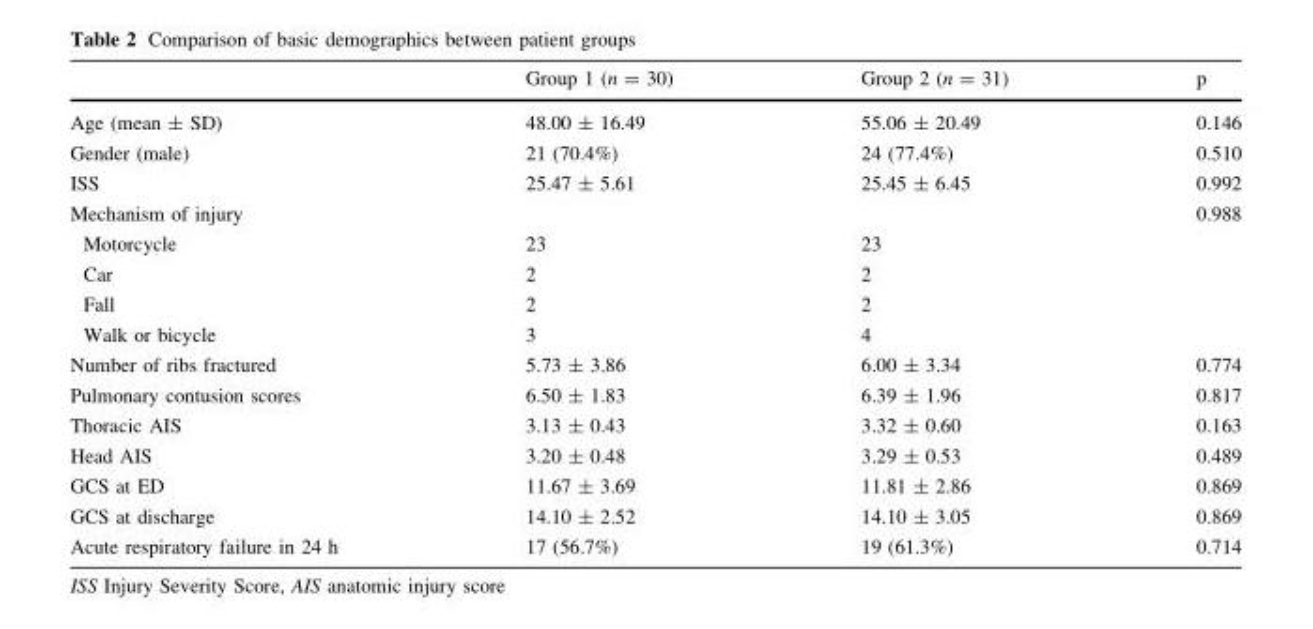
<table><thead><tr><td></td><td>Group 1 (n = 30)</td><td>Group 2 (n = 31)</td><td>p</td></tr></thead><tbody><tr><td>Age (mean ± SD)</td><td>48.00 ± 16.49</td><td>55.06 ± 20.49</td><td>0.146</td></tr><tr><td>Gender (male)</td><td>21 (70.4%)</td><td>24 (77.4%)</td><td>0.510</td></tr><tr><td>ISS</td><td>25.47 ± 5.61</td><td>25.45 ± 6.45</td><td>0.992</td></tr><tr><td>Mechanism of injury</td><td></td><td></td><td>0.988</td></tr><tr><td>Motorcycle</td><td>23</td><td>23</td><td></td></tr><tr><td>Car</td><td>2</td><td>2</td><td></td></tr><tr><td>Fall</td><td>2</td><td>2</td><td></td></tr><tr><td>Walk or bicycle</td><td>3</td><td>4</td><td></td></tr><tr><td>Number of ribs fractured</td><td>5.73 ± 3.86</td><td>6.00 ± 3.34</td><td>0.774</td></tr><tr><td>Pulmonary contusion scores</td><td>6.50 ± 1.83</td><td>6.39 ± 1.96</td><td>0.817</td></tr><tr><td>Thoracic AIS</td><td>3.13 ± 0.43</td><td>3.32 ± 0.60</td><td>0.163</td></tr><tr><td>Head AIS</td><td>3.20 ± 0.48</td><td>3.29 ± 0.53</td><td>0.489</td></tr><tr><td>GCS at ED</td><td>11.67 ± 3.69</td><td>11.81 ± 2.86</td><td>0.869</td></tr><tr><td>GCS at discharge</td><td>14.10 ± 2.52</td><td>14.10 ± 3.05</td><td>0.869</td></tr><tr><td>Acute respiratory failure in 24 h</td><td>17 (56.7%)</td><td>19 (61.3%)</td><td>0.714</td></tr></tbody></table>